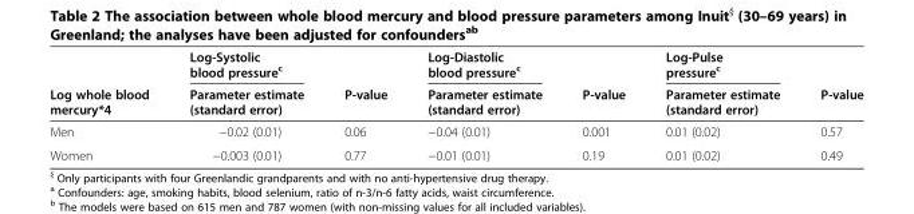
<table><thead><tr><td rowspan="2">Log whole blood mercury*4</td><td rowspan="2">Log-Systolic blood pressure<sup>c</sup> Parameter estimate (standard error)</td><td rowspan="2">P-value</td><td rowspan="2">Log-Diastolic blood pressure<sup>c</sup> Parameter estimate (standard error)</td><td rowspan="2">P-value</td><td rowspan="2">Log-Pulse pressure<sup>c</sup> Parameter estimate (standard error)</td><td rowspan="2">P-value</td></tr><tr></tr></thead><tbody><tr><td>Men</td><td>−0.02 (0.01)</td><td>0.06</td><td>−0.04 (0.01)</td><td>0.001</td><td>0.01 (0.02)</td><td>0.57</td></tr><tr><td>Women</td><td>−0.003 (0.01)</td><td>0.77</td><td>−0.01 (0.01)</td><td>0.19</td><td>0.01 (0.02)</td><td>0.49</td></tr></tbody></table>